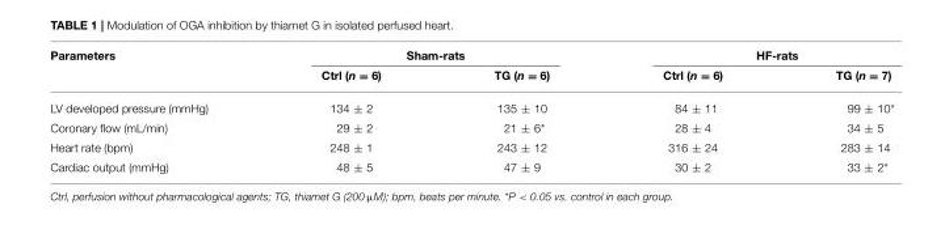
<table><thead><tr><td rowspan="2">Parameters</td><td colspan="2">Sham-rats</td><td colspan="2">HF-rats</td></tr><tr><td>Ctrl (n = 6)</td><td>TG (n = 6)</td><td>Ctrl (n = 6)</td><td>TG (n = 7)</td></tr></thead><tbody><tr><td>LV developed pressure (mmHg)</td><td>134 ± 2</td><td>135 ± 10</td><td>84 ± 11</td><td>99 ± 10*</td></tr><tr><td>Coronary flow (mL/min)</td><td>29 ± 2</td><td>21 ± 6*</td><td>28 ± 4</td><td>34 ± 5</td></tr><tr><td>Heart rate (bpm)</td><td>248 ± 1</td><td>243 ± 12</td><td>316 ± 24</td><td>283 ± 14</td></tr><tr><td>Cardiac output (mmHg)</td><td>48 ± 5</td><td>47 ± 9</td><td>30 ± 2</td><td>33 ± 2*</td></tr></tbody></table>